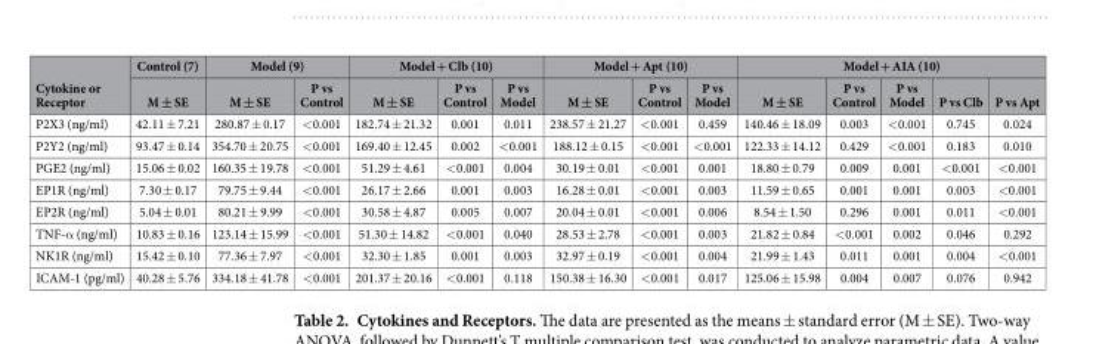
<table><thead><tr><td rowspan="2">Cytokine or Receptor</td><td rowspan="2">Control (7) M ± SE</td><td colspan="2">Model (9)</td><td colspan="3">Model + Clb (10)</td><td colspan="3">Model + Apt (10)</td><td colspan="5">Model + AIA (10)</td></tr><tr><td>M ± SE</td><td>P vs Control</td><td>M ± SE</td><td>P vs Control</td><td>P vs Model</td><td>M ± SE</td><td>P vs Control</td><td>P vs Model</td><td>M ± SE</td><td>P vs Control</td><td>P vs Model</td><td>P vs Clb</td><td>P vs Apt</td></tr></thead><tbody><tr><td>P2X3 (ng/ml)</td><td>42.11 ± 7.21</td><td>280.87 ± 0.17</td><td>&lt; 0.001</td><td>182.74 ± 21.32</td><td>0.001</td><td>0.011</td><td>238.57 ± 21.27</td><td>&lt; 0.001</td><td>0.459</td><td>140.46 ± 18.09</td><td>0.003</td><td>&lt; 0.001</td><td>0.745</td><td>0.024</td></tr><tr><td>P2Y2 (ng/ml)</td><td>93.47 ± 0.14</td><td>354.70 ± 20.75</td><td>&lt; 0.001</td><td>169.40 ± 12.45</td><td>0.002</td><td>&lt; 0.001</td><td>188.12 ± 0.15</td><td>&lt; 0.001</td><td>&lt; 0.001</td><td>122.33 ± 14.12</td><td>0.429</td><td>&lt; 0.001</td><td>0.183</td><td>0.010</td></tr><tr><td>PGE2 (ng/ml)</td><td>15.06 ± 0.02</td><td>160.35 ± 19.78</td><td>&lt; 0.001</td><td>51.29 ± 4.61</td><td>&lt; 0.001</td><td>0.004</td><td>30.19 ± 0.01</td><td>&lt; 0.001</td><td>0.001</td><td>18.80 ± 0.79</td><td>0.009</td><td>0.001</td><td>&lt; 0.001</td><td>&lt; 0.001</td></tr><tr><td>EP1R (ng/ml)</td><td>7.30 ± 0.17</td><td>79.75 ± 9.44</td><td>&lt; 0.001</td><td>26.17 ± 2.66</td><td>0.001</td><td>0.003</td><td>16.28 ± 0.01</td><td>&lt; 0.001</td><td>0.003</td><td>11.59 ± 0.65</td><td>0.001</td><td>0.001</td><td>0.003</td><td>&lt; 0.001</td></tr><tr><td>EP2R (ng/ml)</td><td>5.04 ± 0.01</td><td>80.21 ± 9.99</td><td>&lt; 0.001</td><td>30.58 ± 4.87</td><td>0.005</td><td>0.007</td><td>20.04 ± 0.01</td><td>&lt; 0.001</td><td>0.006</td><td>8.54 ± 1.50</td><td>0.296</td><td>0.001</td><td>0.011</td><td>&lt; 0.001</td></tr><tr><td>TNF-α (ng/ml)</td><td>10.83 ± 0.16</td><td>123.14 ± 15.99</td><td>&lt; 0.001</td><td>51.30 ± 14.82</td><td>&lt; 0.001</td><td>0.040</td><td>28.53 ± 2.78</td><td>&lt; 0.001</td><td>0.003</td><td>21.82 ± 0.84</td><td>&lt; 0.001</td><td>0.002</td><td>0.046</td><td>0.292</td></tr><tr><td>NK1R (ng/ml)</td><td>15.42 ± 0.10</td><td>77.36 ± 7.97</td><td>&lt; 0.001</td><td>32.30 ± 1.85</td><td>0.001</td><td>0.003</td><td>32.97 ± 0.19</td><td>&lt; 0.001</td><td>0.004</td><td>21.99 ± 1.43</td><td>0.011</td><td>0.001</td><td>0.004</td><td>&lt; 0.001</td></tr><tr><td>ICAM-1 (pg/ml)</td><td>40.28 ± 5.76</td><td>334.18 ± 41.78</td><td>&lt; 0.001</td><td>201.37 ± 20.16</td><td>&lt; 0.001</td><td>0.118</td><td>150.38 ± 16.30</td><td>&lt; 0.001</td><td>0.017</td><td>125.06 ± 15.98</td><td>0.004</td><td>0.007</td><td>0.076</td><td>0.942</td></tr></tbody></table>